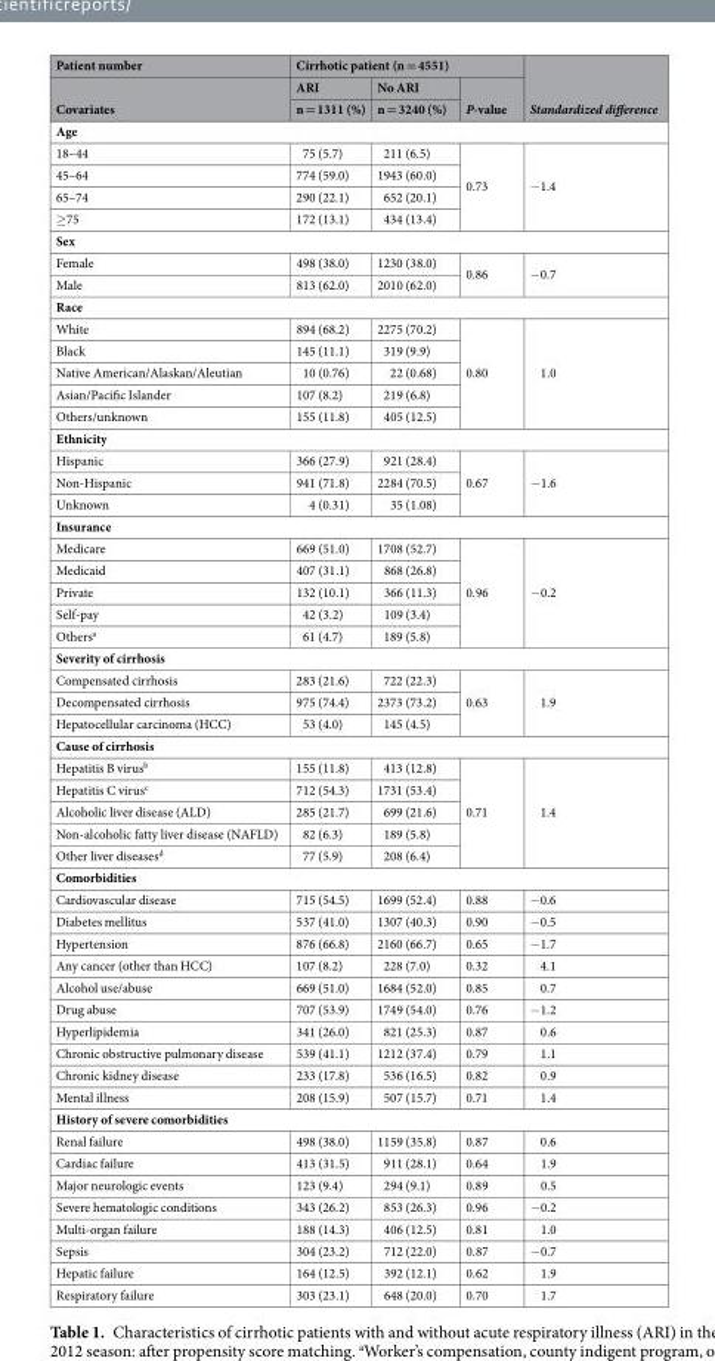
<table><thead><tr><td rowspan="3">Patient number Covariates</td><td colspan="3">Cirrhotic patient (n = 4551)</td><td rowspan="3">Standardized difference</td></tr><tr><td rowspan="2">ARI n = 1311 (%)</td><td rowspan="2">No ARI n = 3240 (%)</td><td rowspan="2">P-value</td></tr><tr></tr></thead><tbody><tr><td colspan="5">Age</td></tr><tr><td>18–44</td><td>75 (5.7)</td><td>211 (6.5)</td><td rowspan="4">0.73</td><td rowspan="4">−1.4</td></tr><tr><td>45–64</td><td>774 (59.0)</td><td>1943 (60.0)</td></tr><tr><td>65–74</td><td>290 (22.1)</td><td>652 (20.1)</td></tr><tr><td>≥75</td><td>172 (13.1)</td><td>434 (13.4)</td></tr><tr><td colspan="5">Sex</td></tr><tr><td>Female</td><td>498 (38.0)</td><td>1230 (38.0)</td><td rowspan="2">0.86</td><td rowspan="2">−0.7</td></tr><tr><td>Male</td><td>813 (62.0)</td><td>2010 (62.0)</td></tr><tr><td colspan="5">Race</td></tr><tr><td>White</td><td>894 (68.2)</td><td>2275 (70.2)</td><td rowspan="5">0.80</td><td rowspan="5">1.0</td></tr><tr><td>Black</td><td>145 (11.1)</td><td>319 (9.9)</td></tr><tr><td>Native American/Alaskan/Aleutian</td><td>10 (0.76)</td><td>22 (0.68)</td></tr><tr><td>Asian/Pacific Islander</td><td>107 (8.2)</td><td>219 (6.8)</td></tr><tr><td>Others/unknown</td><td>155 (11.8)</td><td>405 (12.5)</td></tr><tr><td colspan="5">Ethnicity</td></tr><tr><td>Hispanic</td><td>366 (27.9)</td><td>921 (28.4)</td><td rowspan="3">0.67</td><td rowspan="3">−1.6</td></tr><tr><td>Non-Hispanic</td><td>941 (71.8)</td><td>2284 (70.5)</td></tr><tr><td>Unknown</td><td>4 (0.31)</td><td>35 (1.08)</td></tr><tr><td colspan="5">Insurance</td></tr><tr><td>Medicare</td><td>669 (51.0)</td><td>1708 (52.7)</td><td rowspan="5">0.96</td><td rowspan="5">−0.2</td></tr><tr><td>Medicaid</td><td>407 (31.1)</td><td>868 (26.8)</td></tr><tr><td>Private</td><td>132 (10.1)</td><td>366 (11.3)</td></tr><tr><td>Self-pay</td><td>42 (3.2)</td><td>109 (3.4)</td></tr><tr><td>Others<sup>a</sup></td><td>61 (4.7)</td><td>189 (5.8)</td></tr><tr><td colspan="5">Severity of cirrhosis</td></tr><tr><td>Compensated cirrhosis</td><td>283 (21.6)</td><td>722 (22.3)</td><td rowspan="3">0.63</td><td rowspan="3">1.9</td></tr><tr><td>Decompensated cirrhosis</td><td>975 (74.4)</td><td>2373 (73.2)</td></tr><tr><td>Hepatocellular carcinoma (HCC)</td><td>53 (4.0)</td><td>145 (4.5)</td></tr><tr><td colspan="5">Cause of cirrhosis</td></tr><tr><td>Hepatitis B virus<sup>b</sup></td><td>155 (11.8)</td><td>413 (12.8)</td><td rowspan="5">0.71</td><td rowspan="5">1.4</td></tr><tr><td>Hepatitis C virus<sup>c</sup></td><td>712 (54.3)</td><td>1731 (53.4)</td></tr><tr><td>Alcoholic liver disease (ALD)</td><td>285 (21.7)</td><td>699 (21.6)</td></tr><tr><td>Non-alcoholic fatty liver disease (NAFLD)</td><td>82 (6.3)</td><td>189 (5.8)</td></tr><tr><td>Other liver diseases<sup>d</sup></td><td>77 (5.9)</td><td>208 (6.4)</td></tr><tr><td colspan="5">Comorbidities</td></tr><tr><td>Cardiovascular disease</td><td>715 (54.5)</td><td>1699 (52.4)</td><td>0.88</td><td>−0.6</td></tr><tr><td>Diabetes mellitus</td><td>537 (41.0)</td><td>1307 (40.3)</td><td>0.90</td><td>−0.5</td></tr><tr><td>Hypertension</td><td>876 (66.8)</td><td>2160 (66.7)</td><td>0.65</td><td>−1.7</td></tr><tr><td>Any cancer (other than HCC)</td><td>107 (8.2)</td><td>228 (7.0)</td><td>0.32</td><td>4.1</td></tr><tr><td>Alcohol use/abuse</td><td>669 (51.0)</td><td>1684 (52.0)</td><td>0.85</td><td>0.7</td></tr><tr><td>Drug abuse</td><td>707 (53.9)</td><td>1749 (54.0)</td><td>0.76</td><td>−1.2</td></tr><tr><td>Hyperlipidemia</td><td>341 (26.0)</td><td>821 (25.3)</td><td>0.87</td><td>0.6</td></tr><tr><td>Chronic obstructive pulmonary disease</td><td>539 (41.1)</td><td>1212 (37.4)</td><td>0.79</td><td>1.1</td></tr><tr><td>Chronic kidney disease</td><td>233 (17.8)</td><td>536 (16.5)</td><td>0.82</td><td>0.9</td></tr><tr><td>Mental illness</td><td>208 (15.9)</td><td>507 (15.7)</td><td>0.71</td><td>1.4</td></tr><tr><td colspan="5">History of severe comorbidities</td></tr><tr><td>Renal failure</td><td>498 (38.0)</td><td>1159 (35.8)</td><td>0.87</td><td>0.6</td></tr><tr><td>Cardiac failure</td><td>413 (31.5)</td><td>911 (28.1)</td><td>0.64</td><td>1.9</td></tr><tr><td>Major neurologic events</td><td>123 (9.4)</td><td>294 (9.1)</td><td>0.89</td><td>0.5</td></tr><tr><td>Severe hematologic conditions</td><td>343 (26.2)</td><td>853 (26.3)</td><td>0.96</td><td>−0.2</td></tr><tr><td>Multi-organ failure</td><td>188 (14.3)</td><td>406 (12.5)</td><td>0.81</td><td>1.0</td></tr><tr><td>Sepsis</td><td>304 (23.2)</td><td>712 (22.0)</td><td>0.87</td><td>−0.7</td></tr><tr><td>Hepatic failure</td><td>164 (12.5)</td><td>392 (12.1)</td><td>0.62</td><td>1.9</td></tr><tr><td>Respiratory failure</td><td>303 (23.1)</td><td>648 (20.0)</td><td>0.70</td><td>1.7</td></tr></tbody></table>